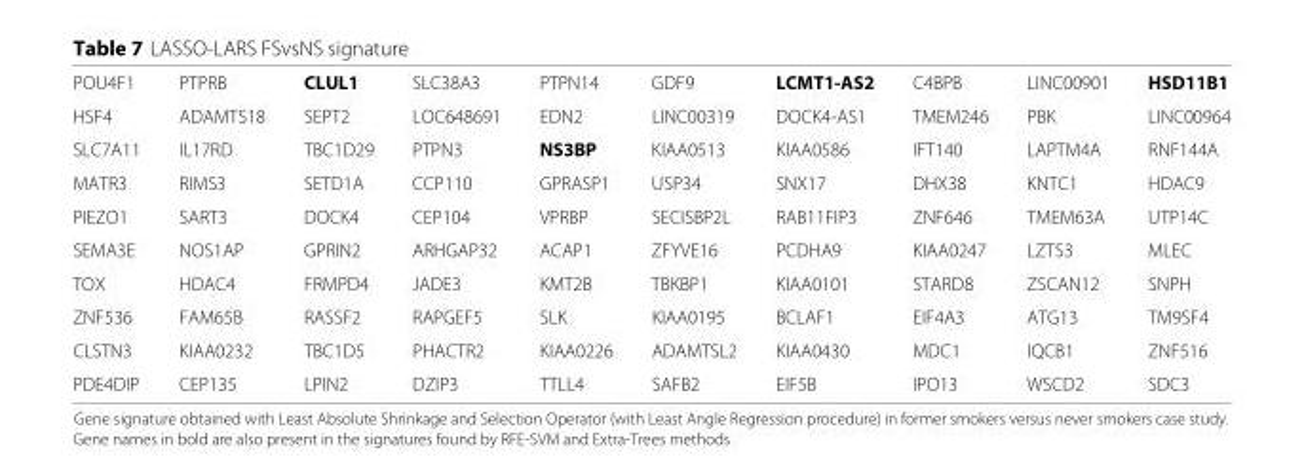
<table><tbody><tr><td>POU4F1</td><td>PTPRB</td><td>CLUL1</td><td>SLC38A3</td><td>PTPN14</td><td>GDF9</td><td>LCMT1-AS2</td><td>C4BPB</td><td>LINC00901</td><td>HSD11B1</td></tr><tr><td>HSF4</td><td>ADAMTS18</td><td>SEPT2</td><td>LOC648691</td><td>EDN2</td><td>LINC00319</td><td>DOCK4-AS1</td><td>TMEM246</td><td>PBK</td><td>LINC00964</td></tr><tr><td>SLC7A11</td><td>IL17RD</td><td>TBC1D29</td><td>PTPN3</td><td>NS3BP</td><td>KIAA0513</td><td>KIAA0586</td><td>IFT140</td><td>LAPTM4A</td><td>RNF144A</td></tr><tr><td>MATR3</td><td>RIMS3</td><td>SETD1A</td><td>CCP110</td><td>GPRASP1</td><td>USP34</td><td>SNX17</td><td>DHX38</td><td>KNTC1</td><td>HDAC9</td></tr><tr><td>PIEZO1</td><td>SART3</td><td>DOCK4</td><td>CEP104</td><td>VPRBP</td><td>SECISBP2L</td><td>RAB11FIP3</td><td>ZNF646</td><td>TMEM63A</td><td>UTP14C</td></tr><tr><td>SEMA3E</td><td>NOS1AP</td><td>GPRIN2</td><td>ARHGAP32</td><td>ACAP1</td><td>ZFYVE16</td><td>PCDHA9</td><td>KIAA0247</td><td>LZTS3</td><td>MLEC</td></tr><tr><td>TOX</td><td>HDAC4</td><td>FRMPD4</td><td>JADE3</td><td>KMT2B</td><td>TBKBP1</td><td>KIAA0101</td><td>STARD8</td><td>ZSCAN12</td><td>SNPH</td></tr><tr><td>ZNF536</td><td>FAM65B</td><td>RASSF2</td><td>RAPGEF5</td><td>SLK</td><td>KIAA0195</td><td>BCLAF1</td><td>EIF4A3</td><td>ATG13</td><td>TM9SF4</td></tr><tr><td>CLSTN3</td><td>KIAA0232</td><td>TBC1D5</td><td>PHACTR2</td><td>KIAA0226</td><td>ADAMTSL2</td><td>KIAA0430</td><td>MDC1</td><td>IQCB1</td><td>ZNF516</td></tr><tr><td>PDE4DIP</td><td>CEP135</td><td>LPIN2</td><td>DZIP3</td><td>TTLL4</td><td>SAFB2</td><td>EIF5B</td><td>IPO13</td><td>WSCD2</td><td>SDC3</td></tr></tbody></table>